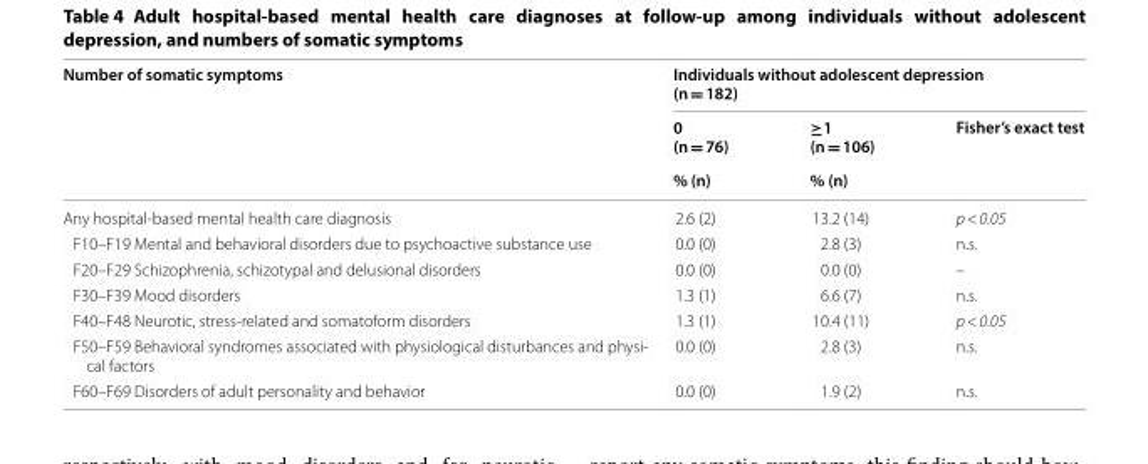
<table><thead><tr><td rowspan="3">Number of somatic symptoms</td><td colspan="3">Individuals without adolescent depression (n = 182)</td></tr><tr><td rowspan="2">0 (n = 76) % (n)</td><td rowspan="2">≥1 (n = 106) % (n)</td><td rowspan="2">Fisher’s exact test</td></tr><tr></tr></thead><tbody><tr><td>Any hospital-based mental health care diagnosis</td><td>2.6 (2)</td><td>13.2 (14)</td><td>p &lt; 0.05</td></tr><tr><td>F10–F19 Mental and behavioral disorders due to psychoactive substance use</td><td>0.0 (0)</td><td>2.8 (3)</td><td>n.s.</td></tr><tr><td>F20–F29 Schizophrenia, schizotypal and delusional disorders</td><td>0.0 (0)</td><td>0.0 (0)</td><td>–</td></tr><tr><td>F30–F39 Mood disorders</td><td>1.3 (1)</td><td>6.6 (7)</td><td>n.s.</td></tr><tr><td>F40–F48 Neurotic, stress-related and somatoform disorders</td><td>1.3 (1)</td><td>10.4 (11)</td><td>p &lt; 0.05</td></tr><tr><td>F50–F59 Behavioral syndromes associated with physiological disturbances and physi- cal factors</td><td>0.0 (0)</td><td>2.8 (3)</td><td>n.s.</td></tr><tr><td>F60–F69 Disorders of adult personality and behavior</td><td>0.0 (0)</td><td>1.9 (2)</td><td>n.s.</td></tr></tbody></table>